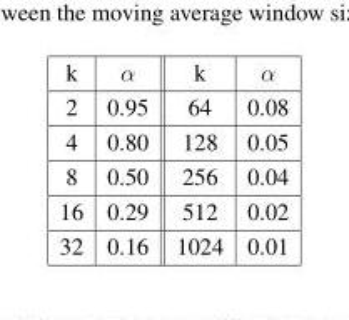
<table><thead><tr><td>k</td><td>α</td><td>k</td><td>α</td></tr></thead><tbody><tr><td>2</td><td>0.95</td><td>64</td><td>0.08</td></tr><tr><td>4</td><td>0.80</td><td>128</td><td>0.05</td></tr><tr><td>8</td><td>0.50</td><td>256</td><td>0.04</td></tr><tr><td>16</td><td>0.29</td><td>512</td><td>0.02</td></tr><tr><td>32</td><td>0.16</td><td>1024</td><td>0.01</td></tr></tbody></table>